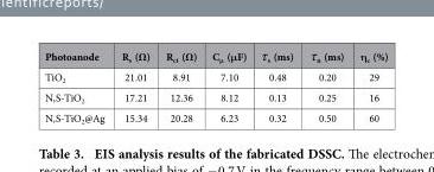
<table><thead><tr><td>Photoanode</td><td>R<sub>s</sub> (Ω)</td><td>R<sub>ct</sub> (Ω)</td><td>C<sub>μ</sub> (μF)</td><td>τ<sub>s</sub> (ms)</td><td>τ<sub>n</sub> (ms)</td><td>η<sub>c</sub> (%)</td></tr></thead><tbody><tr><td>TiO<sub>2</sub></td><td>21.01</td><td>8.91</td><td>7.10</td><td>0.48</td><td>0.20</td><td>29</td></tr><tr><td>N,S-TiO<sub>2</sub></td><td>17.21</td><td>12.36</td><td>8.12</td><td>0.13</td><td>0.25</td><td>16</td></tr><tr><td>N,S-TiO<sub>2</sub>@Ag</td><td>15.34</td><td>20.28</td><td>6.23</td><td>0.32</td><td>0.50</td><td>60</td></tr></tbody></table>